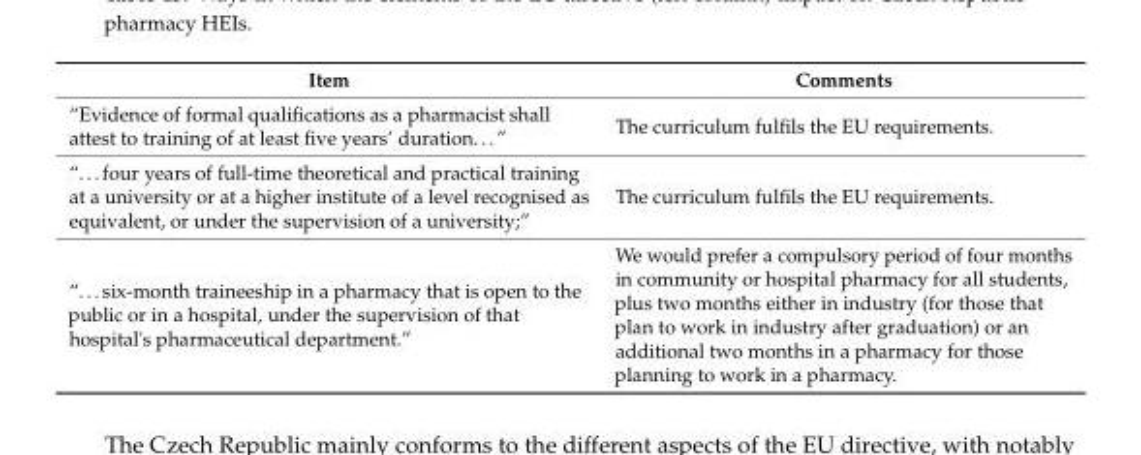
<table><thead><tr><td>Item</td><td>Comments</td></tr></thead><tbody><tr><td>“Evidence of formal qualifications as a pharmacist shall attest to training of at least five years’ duration. . .”</td><td>The curriculum fulfils the EU requirements.</td></tr><tr><td>“. . . four years of full-time theoretical and practical training at a university or at a higher institute of a level recognised as equivalent, or under the supervision of a university;”</td><td>The curriculum fulfils the EU requirements.</td></tr><tr><td>“. . . six-month traineeship in a pharmacy that is open to the public or in a hospital, under the supervision of that hospital&#x27;s pharmaceutical department.”</td><td>We would prefer a compulsory period of four months in community or hospital pharmacy for all students, plus two months either in industry (for those that plan to work in industry after graduation) or an additional two months in a pharmacy for those planning to work in a pharmacy.</td></tr></tbody></table>